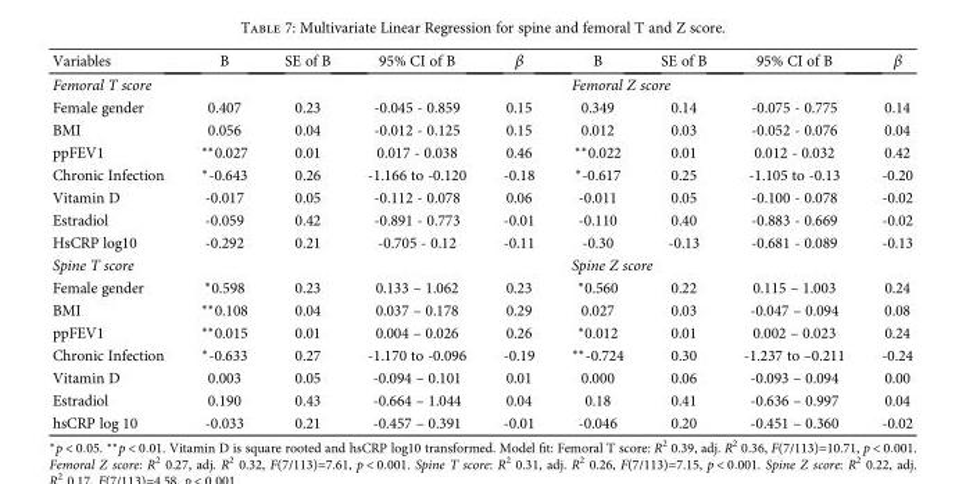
<table><thead><tr><td>Variables</td><td>B</td><td>SE of B</td><td>95% CI of B</td><td>β</td><td>B</td><td>SE of B</td><td>95% CI of B</td><td>β</td></tr></thead><tbody><tr><td>Femoral T score</td><td></td><td></td><td></td><td></td><td colspan="2">Femoral Z score</td><td></td><td></td></tr><tr><td>Female gender</td><td>0.407</td><td>0.23</td><td>-0.045 - 0.859</td><td>0.15</td><td>0.349</td><td>0.14</td><td>-0.075 - 0.775</td><td>0.14</td></tr><tr><td>BMI</td><td>0.056</td><td>0.04</td><td>-0.012 - 0.125</td><td>0.15</td><td>0.012</td><td>0.03</td><td>-0.052 - 0.076</td><td>0.04</td></tr><tr><td>ppFEV1</td><td>∗∗0.027</td><td>0.01</td><td>0.017 - 0.038</td><td>0.46</td><td>∗∗0.022</td><td>0.01</td><td>0.012 - 0.032</td><td>0.42</td></tr><tr><td>Chronic Infection</td><td>∗-0.643</td><td>0.26</td><td>-1.166 to -0.120</td><td>-0.18</td><td>∗-0.617</td><td>0.25</td><td>-1.105 to -0.13</td><td>-0.20</td></tr><tr><td>Vitamin D</td><td>-0.017</td><td>0.05</td><td>-0.112 - 0.078</td><td>0.06</td><td>-0.011</td><td>0.05</td><td>-0.100 - 0.078</td><td>-0.02</td></tr><tr><td>Estradiol</td><td>-0.059</td><td>0.42</td><td>-0.891 - 0.773</td><td>-0.01</td><td>-0.110</td><td>0.40</td><td>-0.883 - 0.669</td><td>-0.02</td></tr><tr><td>HsCRP log10</td><td>-0.292</td><td>0.21</td><td>-0.705 - 0.12</td><td>-0.11</td><td>-0.30</td><td>-0.13</td><td>-0.681 - 0.089</td><td>-0.13</td></tr><tr><td>Spine T score</td><td></td><td></td><td></td><td></td><td colspan="2">Spine Z score</td><td></td><td></td></tr><tr><td>Female gender</td><td>∗0.598</td><td>0.23</td><td>0.133 – 1.062</td><td>0.23</td><td>∗0.560</td><td>0.22</td><td>0.115 – 1.003</td><td>0.24</td></tr><tr><td>BMI</td><td>∗∗0.108</td><td>0.04</td><td>0.037 – 0.178</td><td>0.29</td><td>0.027</td><td>0.03</td><td>-0.047 – 0.094</td><td>0.08</td></tr><tr><td>ppFEV1</td><td>∗∗0.015</td><td>0.01</td><td>0.004 – 0.026</td><td>0.26</td><td>∗0.012</td><td>0.01</td><td>0.002 – 0.023</td><td>0.24</td></tr><tr><td>Chronic Infection</td><td>∗-0.633</td><td>0.27</td><td>-1.170 to -0.096</td><td>-0.19</td><td>∗∗-0.724</td><td>0.30</td><td>-1.237 to –0.211</td><td>-0.24</td></tr><tr><td>Vitamin D</td><td>0.003</td><td>0.05</td><td>-0.094 – 0.101</td><td>0.01</td><td>0.000</td><td>0.06</td><td>-0.093 – 0.094</td><td>0.00</td></tr><tr><td>Estradiol</td><td>0.190</td><td>0.43</td><td>-0.664 – 1.044</td><td>0.04</td><td>0.18</td><td>0.41</td><td>-0.636 – 0.997</td><td>0.04</td></tr><tr><td>hsCRP log 10</td><td>-0.033</td><td>0.21</td><td>-0.457 – 0.391</td><td>-0.01</td><td>-0.046</td><td>0.20</td><td>-0.451 – 0.360</td><td>-0.02</td></tr></tbody></table>